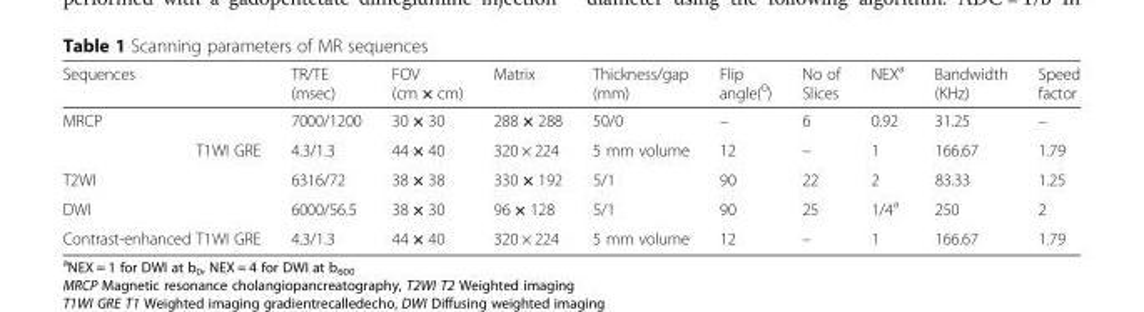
<table><thead><tr><td>Sequences</td><td>TR/TE (msec)</td><td>FOV (cm × cm)</td><td>Matrix</td><td>Thickness/gap (mm)</td><td>Flip angle(0)</td><td>No of Slices</td><td>NEXa</td><td>Bandwidth (KHz)</td><td>Speed factor</td></tr></thead><tbody><tr><td>MRCP</td><td>7000/1200</td><td>30 × 30</td><td>288 × 288</td><td>50/0</td><td>–</td><td>6</td><td>0.92</td><td>31.25</td><td>–</td></tr><tr><td>T1WI GRE</td><td>4.3/1.3</td><td>44 × 40</td><td>320 × 224</td><td>5 mm volume</td><td>12</td><td>–</td><td>1</td><td>166.67</td><td>1.79</td></tr><tr><td>T2WI</td><td>6316/72</td><td>38 × 38</td><td>330 × 192</td><td>5/1</td><td>90</td><td>22</td><td>2</td><td>83.33</td><td>1.25</td></tr><tr><td>DWI</td><td>6000/56.5</td><td>38 × 30</td><td>96 × 128</td><td>5/1</td><td>90</td><td>25</td><td>1/4a</td><td>250</td><td>2</td></tr><tr><td>Contrast-enhanced T1WI GRE</td><td>4.3/1.3</td><td>44 × 40</td><td>320 × 224</td><td>5 mm volume</td><td>12</td><td>–</td><td>1</td><td>166.67</td><td>1.79</td></tr></tbody></table>